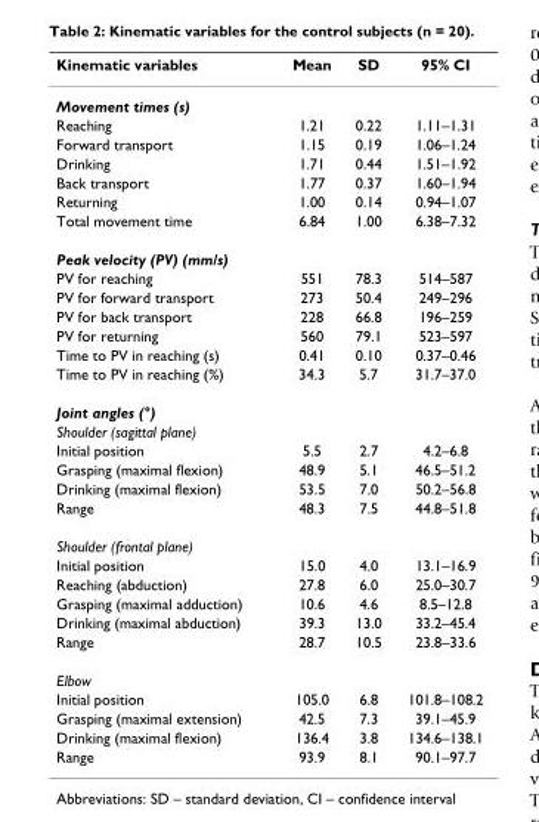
<table><thead><tr><td>Kinematic variables</td><td>Mean</td><td>SD</td><td>95% CI</td></tr></thead><tbody><tr><td colspan="4">Movement times (s)</td></tr><tr><td>Reaching</td><td>1.21</td><td>0.22</td><td>1.11–1.31</td></tr><tr><td>Forward transport</td><td>1.15</td><td>0.19</td><td>1.06–1.24</td></tr><tr><td>Drinking</td><td>1.71</td><td>0.44</td><td>1.51–1.92</td></tr><tr><td>Back transport</td><td>1.77</td><td>0.37</td><td>1.60–1.94</td></tr><tr><td>Returning</td><td>1.00</td><td>0.14</td><td>0.94–1.07</td></tr><tr><td>Total movement time</td><td>6.84</td><td>1.00</td><td>6.38–7.32</td></tr><tr><td colspan="4">Peak velocity (PV) (mm/s)</td></tr><tr><td>PV for reaching</td><td>551</td><td>78.3</td><td>514–587</td></tr><tr><td>PV for forward transport</td><td>273</td><td>50.4</td><td>249–296</td></tr><tr><td>PV for back transport</td><td>228</td><td>66.8</td><td>196–259</td></tr><tr><td>PV for returning</td><td>560</td><td>79.1</td><td>523–597</td></tr><tr><td>Time to PV in reaching (s)</td><td>0.41</td><td>0.10</td><td>0.37–0.46</td></tr><tr><td>Time to PV in reaching (%)</td><td>34.3</td><td>5.7</td><td>31.7–37.0</td></tr><tr><td colspan="4">Joint angles (°)</td></tr><tr><td colspan="4">Shoulder (sagittal plane)</td></tr><tr><td>Initial position</td><td>5.5</td><td>2.7</td><td>4.2–6.8</td></tr><tr><td>Grasping (maximal flexion)</td><td>48.9</td><td>5.1</td><td>46.5–51.2</td></tr><tr><td>Drinking (maximal flexion)</td><td>53.5</td><td>7.0</td><td>50.2–56.8</td></tr><tr><td>Range</td><td>48.3</td><td>7.5</td><td>44.8–51.8</td></tr><tr><td colspan="4">Shoulder (frontal plane)</td></tr><tr><td>Initial position</td><td>15.0</td><td>4.0</td><td>13.1–16.9</td></tr><tr><td>Reaching (abduction)</td><td>27.8</td><td>6.0</td><td>25.0–30.7</td></tr><tr><td>Grasping (maximal adduction)</td><td>10.6</td><td>4.6</td><td>8.5–12.8</td></tr><tr><td>Drinking (maximal abduction)</td><td>39.3</td><td>13.0</td><td>33.2–45.4</td></tr><tr><td>Range</td><td>28.7</td><td>10.5</td><td>23.8–33.6</td></tr><tr><td colspan="4">Elbow</td></tr><tr><td>Initial position</td><td>105.0</td><td>6.8</td><td>101.8–108.2</td></tr><tr><td>Grasping (maximal extension)</td><td>42.5</td><td>7.3</td><td>39.1–45.9</td></tr><tr><td>Drinking (maximal flexion)</td><td>136.4</td><td>3.8</td><td>134.6–138.1</td></tr><tr><td>Range</td><td>93.9</td><td>8.1</td><td>90.1–97.7</td></tr></tbody></table>